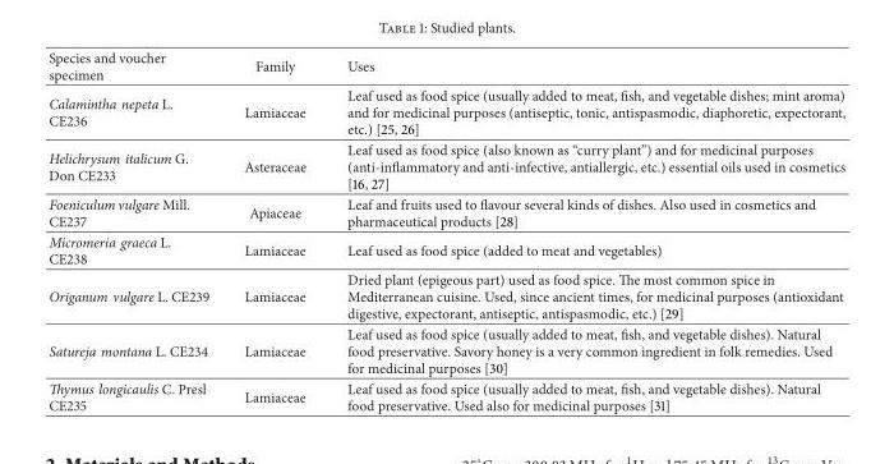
<table><thead><tr><td>Species and voucher specimen</td><td>Family</td><td>Uses</td></tr></thead><tbody><tr><td>Calamintha nepeta L. CE236</td><td>Lamiaceae</td><td>Leaf used as food spice (usually added to meat, fish, and vegetable dishes; mint aroma) and for medicinal purposes (antiseptic, tonic, antispasmodic, diaphoretic, expectorant, etc.) [25, 26]</td></tr><tr><td>Helichrysum italicum G. Don CE233</td><td>Asteraceae</td><td>Leaf used as food spice (also known as “curry plant”) and for medicinal purposes (anti-inflammatory and anti-infective, antiallergic, etc.) essential oils used in cosmetics [16, 27]</td></tr><tr><td>Foeniculum vulgare Mill. CE237</td><td>Apiaceae</td><td>Leaf and fruits used to flavour several kinds of dishes. Also used in cosmetics and pharmaceutical products [28]</td></tr><tr><td>Micromeria graeca L. CE238</td><td>Lamiaceae</td><td>Leaf used as food spice (added to meat and vegetables)</td></tr><tr><td>Origanum vulgare L. CE239</td><td>Lamiaceae</td><td>Dried plant (epigeous part) used as food spice. The most common spice in Mediterranean cuisine. Used, since ancient times, for medicinal purposes (antioxidant digestive, expectorant, antiseptic, antispasmodic, etc.) [29]</td></tr><tr><td>Satureja montana L. CE234</td><td>Lamiaceae</td><td>Leaf used as food spice (usually added to meat, fish, and vegetable dishes). Natural food preservative. Savory honey is a very common ingredient in folk remedies. Used for medicinal purposes [30]</td></tr><tr><td>Thymus longicaulis C. Presl CE235</td><td>Lamiaceae</td><td>Leaf used as food spice (usually added to meat, fish, and vegetable dishes). Natural food preservative. Used also for medicinal purposes [31]</td></tr></tbody></table>